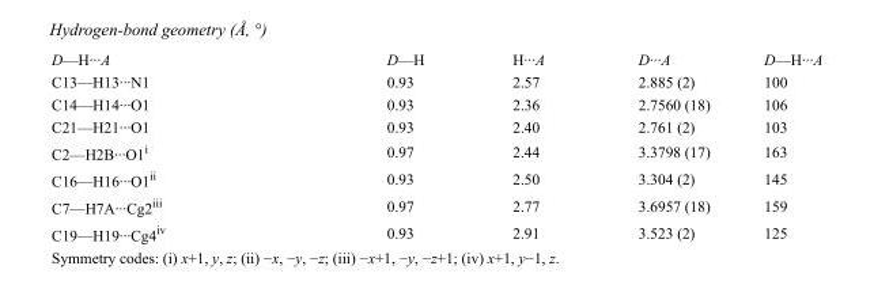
<table><tbody><tr><td>D—H···A</td><td>D—H</td><td>H···A</td><td>D···A</td><td>D—H···A</td></tr><tr><td>C13—H13···N1</td><td>0.93</td><td>2.57</td><td>2.885 (2)</td><td>100</td></tr><tr><td>C14—H14···O1</td><td>0.93</td><td>2.36</td><td>2.7560 (18)</td><td>106</td></tr><tr><td>C21—H21···O1</td><td>0.93</td><td>2.40</td><td>2.761 (2)</td><td>103</td></tr><tr><td>C2—H2B···O1<sup>i</sup></td><td>0.97</td><td>2.44</td><td>3.3798 (17)</td><td>163</td></tr><tr><td>C16—H16···O1<sup>ii</sup></td><td>0.93</td><td>2.50</td><td>3.304 (2)</td><td>145</td></tr><tr><td>C7—H7A···Cg2<sup>iii</sup></td><td>0.97</td><td>2.77</td><td>3.6957 (18)</td><td>159</td></tr><tr><td>C19—H19···Cg4<sup>iv</sup></td><td>0.93</td><td>2.91</td><td>3.523 (2)</td><td>125</td></tr></tbody></table>